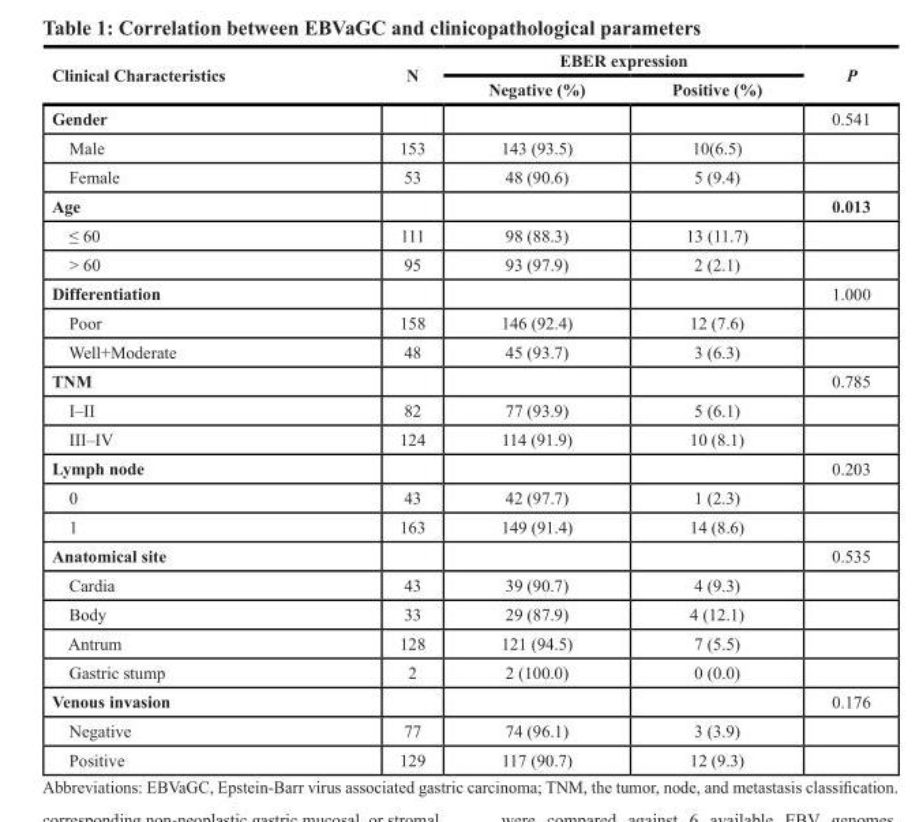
<table><thead><tr><td rowspan="2">Clinical Characteristics</td><td rowspan="2">N</td><td colspan="2">EBER expression</td><td rowspan="2">P</td></tr><tr><td>Negative (%)</td><td>Positive (%)</td></tr></thead><tbody><tr><td>Gender</td><td></td><td></td><td></td><td>0.541</td></tr><tr><td>Male</td><td>153</td><td>143 (93.5)</td><td>10(6.5)</td><td></td></tr><tr><td>Female</td><td>53</td><td>48 (90.6)</td><td>5 (9.4)</td><td></td></tr><tr><td>Age</td><td></td><td></td><td></td><td>0.013</td></tr><tr><td>≤ 60</td><td>111</td><td>98 (88.3)</td><td>13 (11.7)</td><td></td></tr><tr><td>&gt; 60</td><td>95</td><td>93 (97.9)</td><td>2 (2.1)</td><td></td></tr><tr><td>Differentiation</td><td></td><td></td><td></td><td>1.000</td></tr><tr><td>Poor</td><td>158</td><td>146 (92.4)</td><td>12 (7.6)</td><td></td></tr><tr><td>Well+Moderate</td><td>48</td><td>45 (93.7)</td><td>3 (6.3)</td><td></td></tr><tr><td>TNM</td><td></td><td></td><td></td><td>0.785</td></tr><tr><td>I–II</td><td>82</td><td>77 (93.9)</td><td>5 (6.1)</td><td></td></tr><tr><td>III–IV</td><td>124</td><td>114 (91.9)</td><td>10 (8.1)</td><td></td></tr><tr><td>Lymph node</td><td></td><td></td><td></td><td>0.203</td></tr><tr><td>0</td><td>43</td><td>42 (97.7)</td><td>1 (2.3)</td><td></td></tr><tr><td>1</td><td>163</td><td>149 (91.4)</td><td>14 (8.6)</td><td></td></tr><tr><td>Anatomical site</td><td></td><td></td><td></td><td>0.535</td></tr><tr><td>Cardia</td><td>43</td><td>39 (90.7)</td><td>4 (9.3)</td><td></td></tr><tr><td>Body</td><td>33</td><td>29 (87.9)</td><td>4 (12.1)</td><td></td></tr><tr><td>Antrum</td><td>128</td><td>121 (94.5)</td><td>7 (5.5)</td><td></td></tr><tr><td>Gastric stump</td><td>2</td><td>2 (100.0)</td><td>0 (0.0)</td><td></td></tr><tr><td>Venous invasion</td><td></td><td></td><td></td><td>0.176</td></tr><tr><td>Negative</td><td>77</td><td>74 (96.1)</td><td>3 (3.9)</td><td></td></tr><tr><td>Positive</td><td>129</td><td>117 (90.7)</td><td>12 (9.3)</td><td></td></tr></tbody></table>